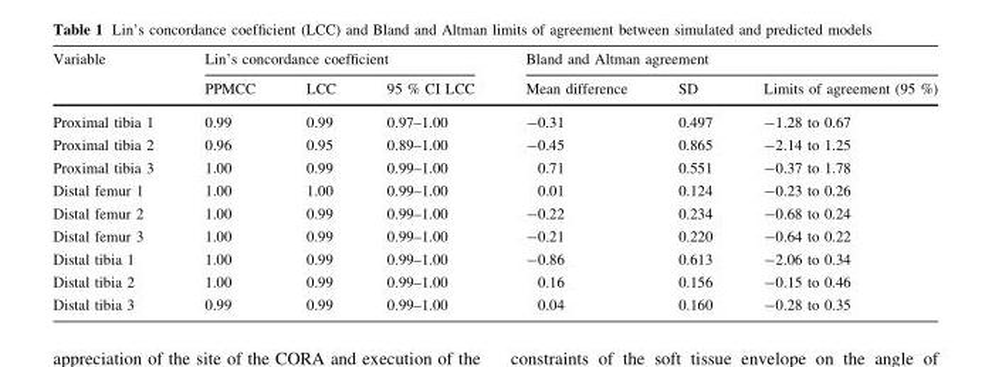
<table><thead><tr><td rowspan="2">Variable</td><td colspan="3">Lin’s concordance coefficient</td><td colspan="3">Bland and Altman agreement</td></tr><tr><td>PPMCC</td><td>LCC</td><td>95 % CI LCC</td><td>Mean difference</td><td>SD</td><td>Limits of agreement (95 %)</td></tr></thead><tbody><tr><td>Proximal tibia 1</td><td>0.99</td><td>0.99</td><td>0.97–1.00</td><td>-0.31</td><td>0.497</td><td>-1.28 to 0.67</td></tr><tr><td>Proximal tibia 2</td><td>0.96</td><td>0.95</td><td>0.89–1.00</td><td>-0.45</td><td>0.865</td><td>-2.14 to 1.25</td></tr><tr><td>Proximal tibia 3</td><td>1.00</td><td>0.99</td><td>0.99–1.00</td><td>0.71</td><td>0.551</td><td>-0.37 to 1.78</td></tr><tr><td>Distal femur 1</td><td>1.00</td><td>1.00</td><td>0.99–1.00</td><td>0.01</td><td>0.124</td><td>-0.23 to 0.26</td></tr><tr><td>Distal femur 2</td><td>1.00</td><td>0.99</td><td>0.99–1.00</td><td>-0.22</td><td>0.234</td><td>-0.68 to 0.24</td></tr><tr><td>Distal femur 3</td><td>1.00</td><td>0.99</td><td>0.99–1.00</td><td>-0.21</td><td>0.220</td><td>-0.64 to 0.22</td></tr><tr><td>Distal tibia 1</td><td>1.00</td><td>0.99</td><td>0.99–1.00</td><td>-0.86</td><td>0.613</td><td>-2.06 to 0.34</td></tr><tr><td>Distal tibia 2</td><td>1.00</td><td>0.99</td><td>0.99–1.00</td><td>0.16</td><td>0.156</td><td>-0.15 to 0.46</td></tr><tr><td>Distal tibia 3</td><td>0.99</td><td>0.99</td><td>0.99–1.00</td><td>0.04</td><td>0.160</td><td>-0.28 to 0.35</td></tr></tbody></table>